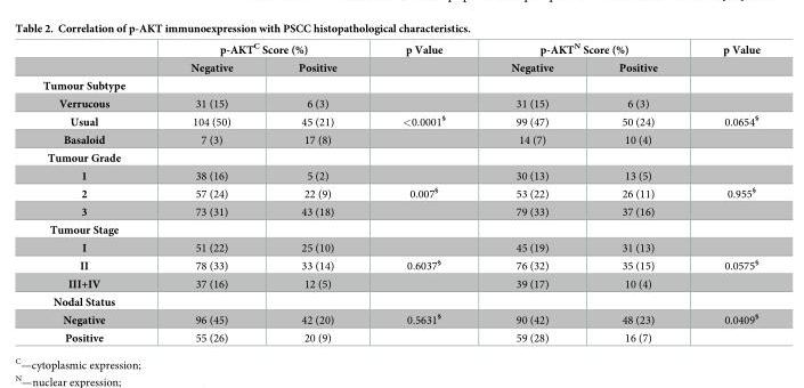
<table><thead><tr><td rowspan="2"></td><td colspan="2">p-AKT<sup>C</sup> Score (%)</td><td rowspan="2">p Value</td><td colspan="2">p-AKT<sup>N</sup> Score (%)</td><td rowspan="2">p Value</td></tr><tr><td>Negative</td><td>Positive</td><td>Negative</td><td>Positive</td></tr></thead><tbody><tr><td colspan="7">Tumour Subtype</td></tr><tr><td>Verrucous</td><td>31 (15)</td><td>6 (3)</td><td></td><td>31 (15)</td><td>6 (3)</td><td></td></tr><tr><td>Usual</td><td>104 (50)</td><td>45 (21)</td><td>&lt;0.0001<sup>§</sup></td><td>99 (47)</td><td>50 (24)</td><td>0.0654<sup>§</sup></td></tr><tr><td>Basaloid</td><td>7 (3)</td><td>17 (8)</td><td></td><td>14 (7)</td><td>10 (4)</td><td></td></tr><tr><td colspan="7">Tumour Grade</td></tr><tr><td>1</td><td>38 (16)</td><td>5 (2)</td><td></td><td>30 (13)</td><td>13 (5)</td><td></td></tr><tr><td>2</td><td>57 (24)</td><td>22 (9)</td><td>0.007<sup>§</sup></td><td>53 (22)</td><td>26 (11)</td><td>0.955<sup>§</sup></td></tr><tr><td>3</td><td>73 (31)</td><td>43 (18)</td><td></td><td>79 (33)</td><td>37 (16)</td><td></td></tr><tr><td colspan="7">Tumour Stage</td></tr><tr><td>I</td><td>51 (22)</td><td>25 (10)</td><td></td><td>45 (19)</td><td>31 (13)</td><td></td></tr><tr><td>II</td><td>78 (33)</td><td>33 (14)</td><td>0.6037<sup>§</sup></td><td>76 (32)</td><td>35 (15)</td><td>0.0575<sup>§</sup></td></tr><tr><td>III+IV</td><td>37 (16)</td><td>12 (5)</td><td></td><td>39 (17)</td><td>10 (4)</td><td></td></tr><tr><td colspan="7">Nodal Status</td></tr><tr><td>Negative</td><td>96 (45)</td><td>42 (20)</td><td>0.5631<sup>§</sup></td><td>90 (42)</td><td>48 (23)</td><td>0.0409<sup>§</sup></td></tr><tr><td>Positive</td><td>55 (26)</td><td>20 (9)</td><td></td><td>59 (28)</td><td>16 (7)</td><td></td></tr></tbody></table>